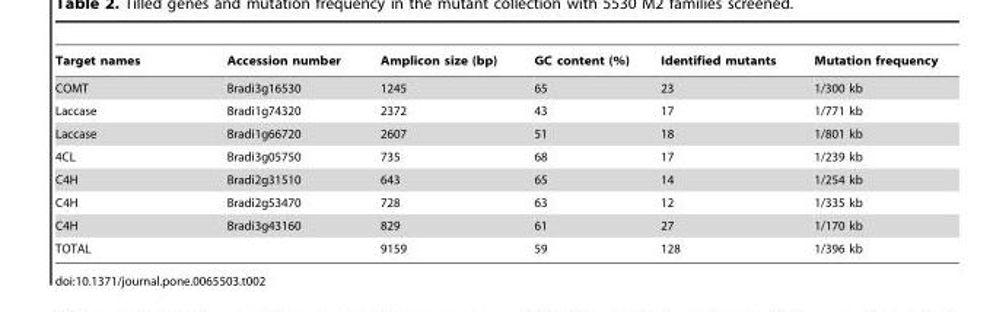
<table><thead><tr><td>Target names</td><td>Accession number</td><td>Amplicon size (bp)</td><td>GC content (%)</td><td>Identified mutants</td><td>Mutation frequency</td></tr></thead><tbody><tr><td>COMT</td><td>Bradi3g16530</td><td>1245</td><td>65</td><td>23</td><td>1/300 kb</td></tr><tr><td>Laccase</td><td>Bradi1g74320</td><td>2372</td><td>43</td><td>17</td><td>1/771 kb</td></tr><tr><td>Laccase</td><td>Bradi1g66720</td><td>2607</td><td>51</td><td>18</td><td>1/801 kb</td></tr><tr><td>4CL</td><td>Bradi3g05750</td><td>735</td><td>68</td><td>17</td><td>1/239 kb</td></tr><tr><td>C4H</td><td>Bradi2g31510</td><td>643</td><td>65</td><td>14</td><td>1/254 kb</td></tr><tr><td>C4H</td><td>Bradi2g53470</td><td>728</td><td>63</td><td>12</td><td>1/335 kb</td></tr><tr><td>C4H</td><td>Bradi3g43160</td><td>829</td><td>61</td><td>27</td><td>1/170 kb</td></tr><tr><td>TOTAL</td><td></td><td>9159</td><td>59</td><td>128</td><td>1/396 kb</td></tr></tbody></table>